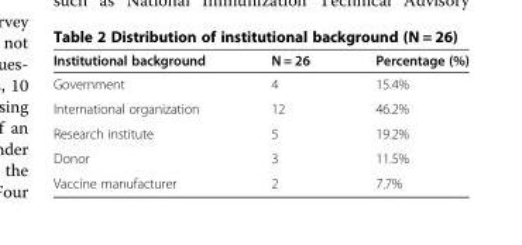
<table><thead><tr><td>Institutional background</td><td>N = 26</td><td>Percentage (%)</td></tr></thead><tbody><tr><td>Government</td><td>4</td><td>15.4%</td></tr><tr><td>International organization</td><td>12</td><td>46.2%</td></tr><tr><td>Research institute</td><td>5</td><td>19.2%</td></tr><tr><td>Donor</td><td>3</td><td>11.5%</td></tr><tr><td>Vaccine manufacturer</td><td>2</td><td>7.7%</td></tr></tbody></table>